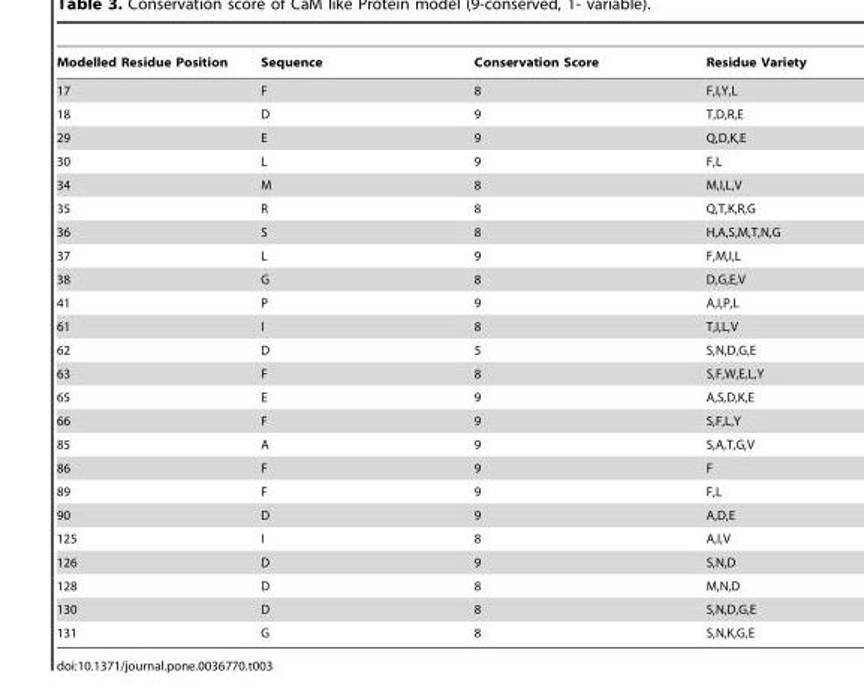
<table><thead><tr><td>Modelled Residue Position</td><td>Sequence</td><td>Conservation Score</td><td>Residue Variety</td></tr></thead><tbody><tr><td>17</td><td>F</td><td>8</td><td>F,I,Y,L</td></tr><tr><td>18</td><td>D</td><td>9</td><td>T,D,R,E</td></tr><tr><td>29</td><td>E</td><td>9</td><td>Q,D,K,E</td></tr><tr><td>30</td><td>L</td><td>9</td><td>F,L</td></tr><tr><td>34</td><td>M</td><td>8</td><td>M,I,L,V</td></tr><tr><td>35</td><td>R</td><td>8</td><td>Q,T,K,R,G</td></tr><tr><td>36</td><td>S</td><td>8</td><td>H,A,S,M,T,N,G</td></tr><tr><td>37</td><td>L</td><td>9</td><td>F,M,I,L</td></tr><tr><td>38</td><td>G</td><td>8</td><td>D,G,E,V</td></tr><tr><td>41</td><td>P</td><td>9</td><td>A,I,P,L</td></tr><tr><td>61</td><td>I</td><td>8</td><td>T,I,L,V</td></tr><tr><td>62</td><td>D</td><td>5</td><td>S,N,D,G,E</td></tr><tr><td>63</td><td>F</td><td>8</td><td>S,F,W,E,L,Y</td></tr><tr><td>65</td><td>E</td><td>9</td><td>A,S,D,K,E</td></tr><tr><td>66</td><td>F</td><td>9</td><td>S,F,L,Y</td></tr><tr><td>85</td><td>A</td><td>9</td><td>S,A,T,G,V</td></tr><tr><td>86</td><td>F</td><td>9</td><td>F</td></tr><tr><td>89</td><td>F</td><td>9</td><td>F,L</td></tr><tr><td>90</td><td>D</td><td>9</td><td>A,D,E</td></tr><tr><td>125</td><td>I</td><td>8</td><td>A,I,V</td></tr><tr><td>126</td><td>D</td><td>9</td><td>S,N,D</td></tr><tr><td>128</td><td>D</td><td>8</td><td>M,N,D</td></tr><tr><td>130</td><td>D</td><td>8</td><td>S,N,D,G,E</td></tr><tr><td>131</td><td>G</td><td>8</td><td>S,N,K,G,E</td></tr></tbody></table>